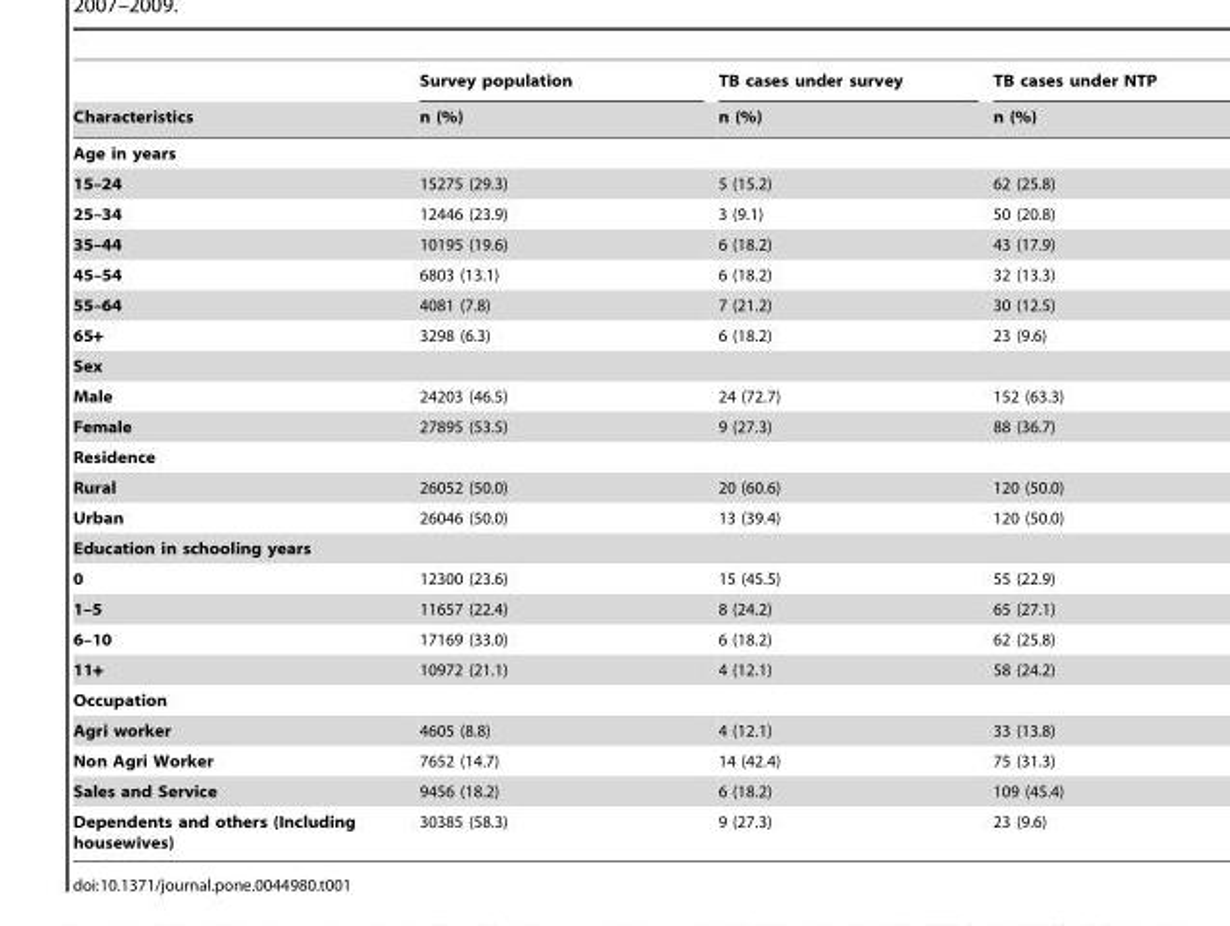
<table><thead><tr><td rowspan="2">Characteristics</td><td rowspan="2">Survey population n (%)</td><td rowspan="2">TB cases under survey n (%)</td><td rowspan="2">TB cases under NTP n (%)</td></tr><tr></tr></thead><tbody><tr><td colspan="4">Age in years</td></tr><tr><td>15–24</td><td>15275 (29.3)</td><td>5 (15.2)</td><td>62 (25.8)</td></tr><tr><td>25–34</td><td>12446 (23.9)</td><td>3 (9.1)</td><td>50 (20.8)</td></tr><tr><td>35–44</td><td>10195 (19.6)</td><td>6 (18.2)</td><td>43 (17.9)</td></tr><tr><td>45–54</td><td>6803 (13.1)</td><td>6 (18.2)</td><td>32 (13.3)</td></tr><tr><td>55–64</td><td>4081 (7.8)</td><td>7 (21.2)</td><td>30 (12.5)</td></tr><tr><td>65+</td><td>3298 (6.3)</td><td>6 (18.2)</td><td>23 (9.6)</td></tr><tr><td colspan="4">Sex</td></tr><tr><td>Male</td><td>24203 (46.5)</td><td>24 (72.7)</td><td>152 (63.3)</td></tr><tr><td>Female</td><td>27895 (53.5)</td><td>9 (27.3)</td><td>88 (36.7)</td></tr><tr><td colspan="4">Residence</td></tr><tr><td>Rural</td><td>26052 (50.0)</td><td>20 (60.6)</td><td>120 (50.0)</td></tr><tr><td>Urban</td><td>26046 (50.0)</td><td>13 (39.4)</td><td>120 (50.0)</td></tr><tr><td colspan="4">Education in schooling years</td></tr><tr><td>0</td><td>12300 (23.6)</td><td>15 (45.5)</td><td>55 (22.9)</td></tr><tr><td>1–5</td><td>11657 (22.4)</td><td>8 (24.2)</td><td>65 (27.1)</td></tr><tr><td>6–10</td><td>17169 (33.0)</td><td>6 (18.2)</td><td>62 (25.8)</td></tr><tr><td>11+</td><td>10972 (21.1)</td><td>4 (12.1)</td><td>58 (24.2)</td></tr><tr><td colspan="4">Occupation</td></tr><tr><td>Agri worker</td><td>4605 (8.8)</td><td>4 (12.1)</td><td>33 (13.8)</td></tr><tr><td>Non Agri Worker</td><td>7652 (14.7)</td><td>14 (42.4)</td><td>75 (31.3)</td></tr><tr><td>Sales and Service</td><td>9456 (18.2)</td><td>6 (18.2)</td><td>109 (45.4)</td></tr><tr><td>Dependents and others (Including housewives)</td><td>30385 (58.3)</td><td>9 (27.3)</td><td>23 (9.6)</td></tr></tbody></table>